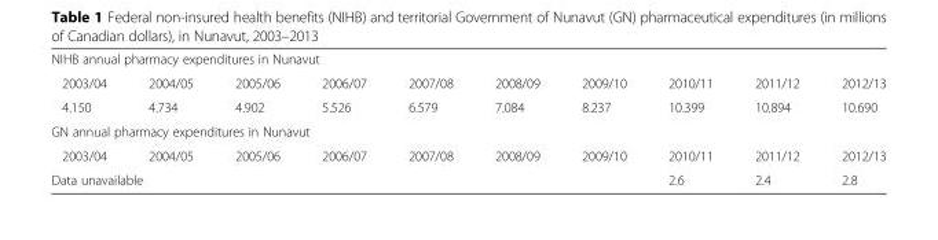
<table><tbody><tr><td colspan="10">NIHB annual pharmacy expenditures in Nunavut</td></tr><tr><td>2003/04</td><td>2004/05</td><td>2005/06</td><td>2006/07</td><td>2007/08</td><td>2008/09</td><td>2009/10</td><td>2010/11</td><td>2011/12</td><td>2012/13</td></tr><tr><td>4.150</td><td>4.734</td><td>4.902</td><td>5.526</td><td>6.579</td><td>7.084</td><td>8.237</td><td>10.399</td><td>10.894</td><td>10.690</td></tr><tr><td colspan="10">GN annual pharmacy expenditures in Nunavut</td></tr><tr><td>2003/04</td><td>2004/05</td><td>2005/06</td><td>2006/07</td><td>2007/08</td><td>2008/09</td><td>2009/10</td><td>2010/11</td><td>2011/12</td><td>2012/13</td></tr><tr><td colspan="7">Data unavailable</td><td>2.6</td><td>2.4</td><td>2.8</td></tr></tbody></table>